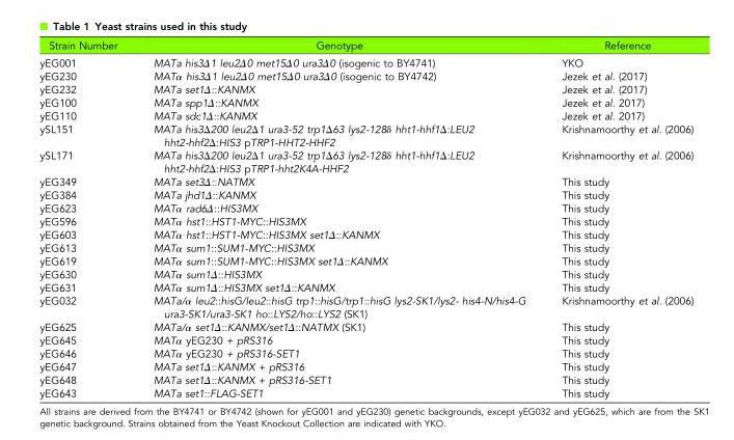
<table><thead><tr><td>Strain Number</td><td>Genotype</td><td>Reference</td></tr></thead><tbody><tr><td>yEG001</td><td>MATa his3Δ1 leu2Δ0 met15Δ0 ura3Δ0 (isogenic to BY4741)</td><td>YKO</td></tr><tr><td>yEG230</td><td>MATα his3Δ1 leu2Δ0 met15Δ0 ura3Δ0 (isogenic to BY4742)</td><td>Jezek et al. (2017)</td></tr><tr><td>yEG232</td><td>MATa set1Δ::KANMX</td><td>Jezek et al. (2017)</td></tr><tr><td>yEG100</td><td>MATa spp1Δ::KANMX</td><td>Jezek et al. 2017)</td></tr><tr><td>yEG110</td><td>MATa sdc1Δ::KANMX</td><td>Jezek et al. 2017)</td></tr><tr><td>ySL151</td><td>MATa his3Δ200 leu2Δ1 ura3-52 trp1Δ63 lys2-128δ hht1-hhf1Δ:LEU2 hht2-hhf2Δ:HIS3 pTRP1-HHT2-HHF2</td><td>Krishnamoorthy et al. (2006)</td></tr><tr><td>ySL171</td><td>MATa his3Δ200 leu2Δ1 ura3-52 trp1Δ63 lys2-128δ hht1-hhf1Δ:LEU2 hht2-hhf2Δ:HIS3 pTRP1-hht2K4A-HHF2</td><td>Krishnamoorthy et al. (2006)</td></tr><tr><td>yEG349</td><td>MATa set3Δ::NATMX</td><td>This study</td></tr><tr><td>yEG384</td><td>MATa jhd1Δ::KANMX</td><td>This study</td></tr><tr><td>yEG623</td><td>MATα rad6Δ::HIS3MX</td><td>This study</td></tr><tr><td>yEG596</td><td>MATα hst1::HST1-MYC::HIS3MX</td><td>This study</td></tr><tr><td>yEG603</td><td>MATα hst1::HST1-MYC::HIS3MX set1Δ::KANMX</td><td>This study</td></tr><tr><td>yEG613</td><td>MATα sum1::SUM1-MYC::HIS3MX</td><td>This study</td></tr><tr><td>yEG619</td><td>MATα sum1::SUM1-MYC::HIS3MX set1Δ::KANMX</td><td>This study</td></tr><tr><td>yEG630</td><td>MATα sum1Δ::HIS3MX</td><td>This study</td></tr><tr><td>yEG631</td><td>MATα sum1Δ::HIS3MX set1Δ::KANMX</td><td>This study</td></tr><tr><td>yEG032</td><td>MATa/α leu2::hisG/leu2::hisG trp1::hisG/trp1::hisG lys2-SK1/lys2- his4-N/his4-G ura3-SK1/ura3-SK1 ho::LYS2/ho::LYS2 (SK1)</td><td>Krishnamoorthy et al. (2006)</td></tr><tr><td>yEG625</td><td>MATa/α set1Δ::KANMX/set1Δ::NATMX (SK1)</td><td>This study</td></tr><tr><td>yEG645</td><td>MATα yEG230 + pRS316</td><td>This study</td></tr><tr><td>yEG646</td><td>MATα yEG230 + pRS316-SET1</td><td>This study</td></tr><tr><td>yEG647</td><td>MATa set1Δ::KANMX + pRS316</td><td>This study</td></tr><tr><td>yEG648</td><td>MATa set1Δ::KANMX + pRS316-SET1</td><td>This study</td></tr><tr><td>yEG643</td><td>MATa set1::FLAG-SET1</td><td>This study</td></tr></tbody></table>